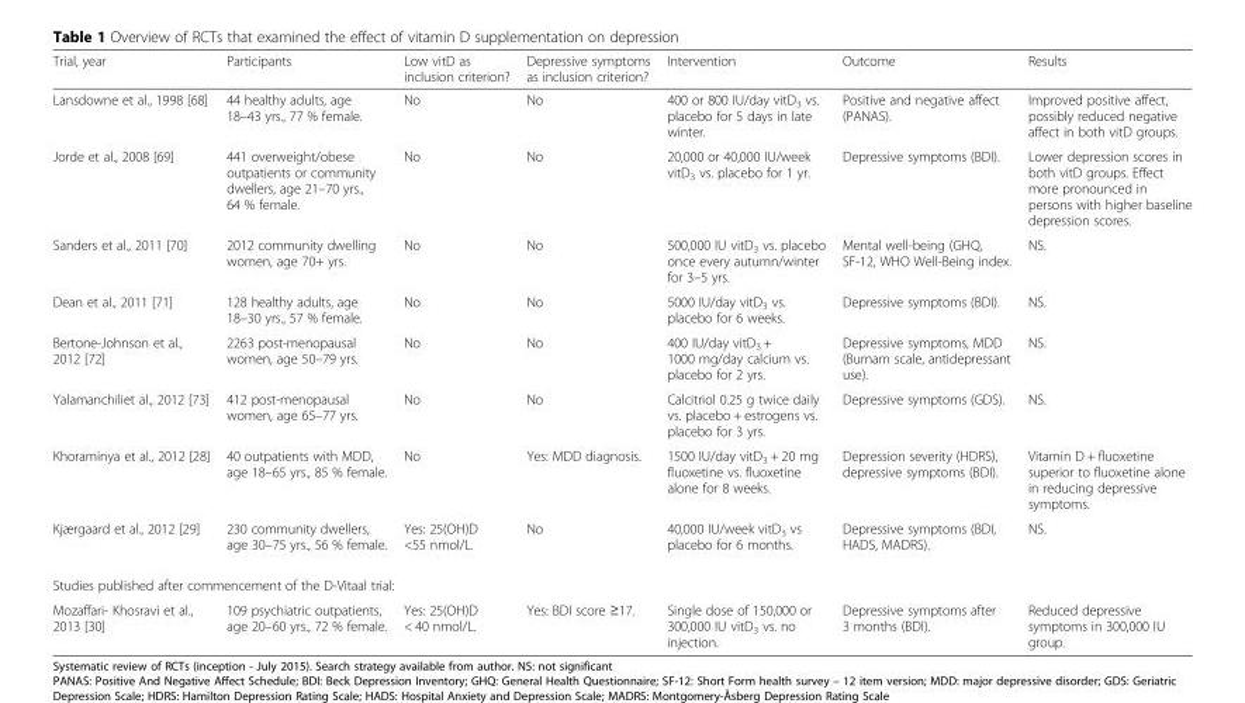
<table><thead><tr><td>Trial, year</td><td>Participants</td><td>Low vitD as inclusion criterion?</td><td>Depressive symptoms as inclusion criterion?</td><td>Intervention</td><td>Outcome</td><td>Results</td></tr></thead><tbody><tr><td>Lansdowne et al., 1998 [68]</td><td>44 healthy adults, age 18–43 yrs., 77 % female.</td><td>No</td><td>No</td><td>400 or 800 IU/day vitD<sub>3</sub> vs. placebo for 5 days in late winter.</td><td>Positive and negative affect (PANAS).</td><td>Improved positive affect, possibly reduced negative affect in both vitD groups.</td></tr><tr><td>Jorde et al., 2008 [69]</td><td>441 overweight/obese outpatients or community dwellers, age 21–70 yrs., 64 % female.</td><td>No</td><td>No</td><td>20,000 or 40,000 IU/week vitD<sub>3</sub> vs. placebo for 1 yr.</td><td>Depressive symptoms (BDI).</td><td>Lower depression scores in both vitD groups. Effect more pronounced in persons with higher baseline depression scores.</td></tr><tr><td>Sanders et al., 2011 [70]</td><td>2012 community dwelling women, age 70+ yrs.</td><td>No</td><td>No</td><td>500,000 IU vitD<sub>3</sub> vs. placebo once every autumn/winter for 3–5 yrs.</td><td>Mental well-being (GHQ, SF-12, WHO Well-Being index.</td><td>NS.</td></tr><tr><td>Dean et al., 2011 [71]</td><td>128 healthy adults, age 18–30 yrs., 57 % female.</td><td>No</td><td>No</td><td>5000 IU/day vitD<sub>3</sub> vs. placebo for 6 weeks.</td><td>Depressive symptoms (BDI).</td><td>NS.</td></tr><tr><td>Bertone-Johnson et al., 2012 [72]</td><td>2263 post-menopausal women, age 50–79 yrs.</td><td>No</td><td>No</td><td>400 IU/day vitD<sub>3</sub> + 1000 mg/day calcium vs. placebo for 2 yrs.</td><td>Depressive symptoms, MDD (Burnam scale, antidepressant use).</td><td>NS.</td></tr><tr><td>Yalamanchiliet al., 2012 [73]</td><td>412 post-menopausal women, age 65–77 yrs.</td><td>No</td><td>No</td><td>Calcitriol 0.25 g twice daily vs. placebo + estrogens vs. placebo for 3 yrs.</td><td>Depressive symptoms (GDS).</td><td>NS.</td></tr><tr><td>Khoraminya et al., 2012 [28]</td><td>40 outpatients with MDD, age 18–65 yrs., 85 % female.</td><td>No</td><td>Yes: MDD diagnosis.</td><td>1500 IU/day vitD<sub>3</sub> + 20 mg fluoxetine vs. fluoxetine alone for 8 weeks.</td><td>Depression severity (HDRS), depressive symptoms (BDI).</td><td>Vitamin D + fluoxetine superior to fluoxetine alone in reducing depressive symptoms.</td></tr><tr><td>Kjærgaard et al., 2012 [29]</td><td>230 community dwellers, age 30–75 yrs., 56 % female.</td><td>Yes: 25(OH)D &lt;55 nmol/L.</td><td>No</td><td>40,000 IU/week vitD<sub>3</sub> vs placebo for 6 months.</td><td>Depressive symptoms (BDI, HADS, MADRS).</td><td>NS.</td></tr><tr><td colspan="7">Studies published after commencement of the D-Vitaal trial:</td></tr><tr><td>Mozaffari- Khosravi et al., 2013 [30]</td><td>109 psychiatric outpatients, age 20–60 yrs., 72 % female.</td><td>Yes: 25(OH)D &lt; 40 nmol/L.</td><td>Yes: BDI score ≥17.</td><td>Single dose of 150,000 or 300,000 IU vitD<sub>3</sub> vs. no injection.</td><td>Depressive symptoms after 3 months (BDI).</td><td>Reduced depressive symptoms in 300,000 IU group.</td></tr></tbody></table>